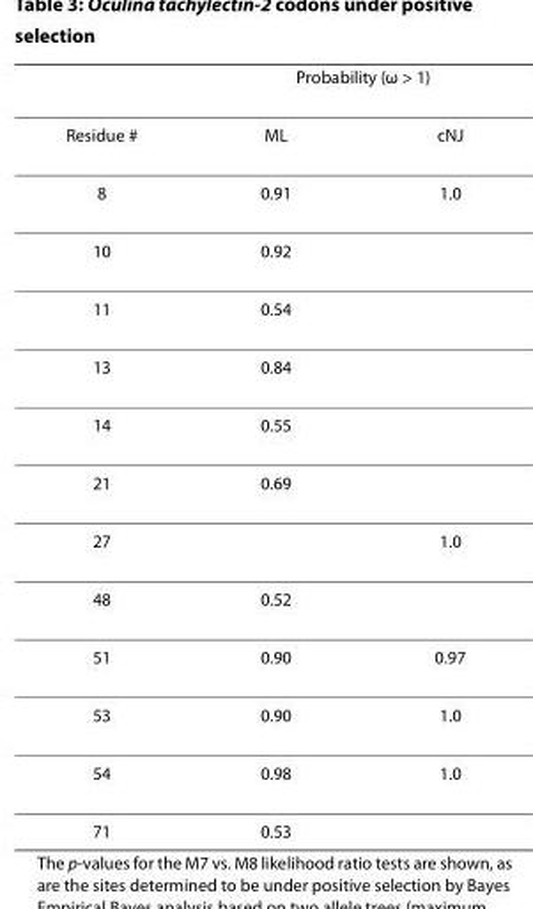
<table><thead><tr><td rowspan="2">Residue #</td><td colspan="2">Probability (ω &gt; 1)</td></tr><tr><td>ML</td><td>cNJ</td></tr></thead><tbody><tr><td>8</td><td>0.91</td><td>1.0</td></tr><tr><td>10</td><td>0.92</td><td></td></tr><tr><td>11</td><td>0.54</td><td></td></tr><tr><td>13</td><td>0.84</td><td></td></tr><tr><td>14</td><td>0.55</td><td></td></tr><tr><td>21</td><td>0.69</td><td></td></tr><tr><td>27</td><td></td><td>1.0</td></tr><tr><td>48</td><td>0.52</td><td></td></tr><tr><td>51</td><td>0.90</td><td>0.97</td></tr><tr><td>53</td><td>0.90</td><td>1.0</td></tr><tr><td>54</td><td>0.98</td><td>1.0</td></tr><tr><td>71</td><td>0.53</td><td></td></tr></tbody></table>